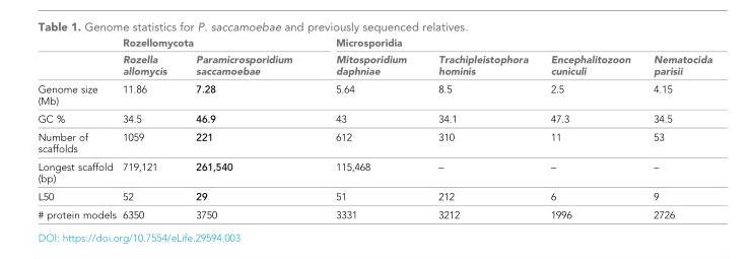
<table><thead><tr><td rowspan="2"></td><td colspan="2">Rozellomycota</td><td colspan="4">Microsporidia</td></tr><tr><td>Rozella allomycis</td><td>Paramicrosporidium saccamoebae</td><td>Mitosporidium daphniae</td><td>Trachipleistophora hominis</td><td>Encephalitozoon cuniculi</td><td>Nematocida parisii</td></tr></thead><tbody><tr><td>Genome size (Mb)</td><td>11.86</td><td>7.28</td><td>5.64</td><td>8.5</td><td>2.5</td><td>4.15</td></tr><tr><td>GC %</td><td>34.5</td><td>46.9</td><td>43</td><td>34.1</td><td>47.3</td><td>34.5</td></tr><tr><td>Number of scaffolds</td><td>1059</td><td>221</td><td>612</td><td>310</td><td>11</td><td>53</td></tr><tr><td>Longest scaffold (bp)</td><td>719,121</td><td>261,540</td><td>115,468</td><td>–</td><td>–</td><td>–</td></tr><tr><td>L50</td><td>52</td><td>29</td><td>51</td><td>212</td><td>6</td><td>9</td></tr><tr><td># protein models</td><td>6350</td><td>3750</td><td>3331</td><td>3212</td><td>1996</td><td>2726</td></tr></tbody></table>